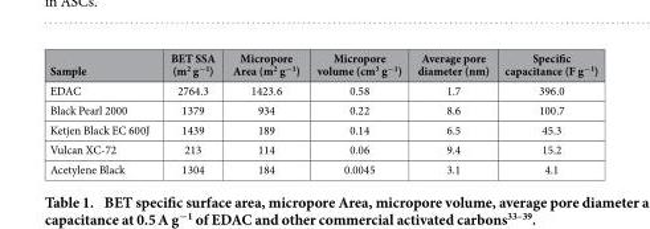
<table><thead><tr><td>Sample</td><td>BET SSA (m<sup>2</sup> g<sup>−1</sup>)</td><td>Micropore Area (m<sup>2</sup> g<sup>−1</sup>)</td><td>Micropore volume (cm<sup>3</sup> g<sup>−1</sup>)</td><td>Average pore diameter (nm)</td><td>Specific capacitance (F g<sup>−1</sup>)</td></tr></thead><tbody><tr><td>EDAC</td><td>2764.3</td><td>1423.6</td><td>0.58</td><td>1.7</td><td>396.0</td></tr><tr><td>Black Pearl 2000</td><td>1379</td><td>934</td><td>0.22</td><td>8.6</td><td>100.7</td></tr><tr><td>Ketjen Black EC 600J</td><td>1439</td><td>189</td><td>0.14</td><td>6.5</td><td>45.3</td></tr><tr><td>Vulcan XC-72</td><td>213</td><td>114</td><td>0.06</td><td>9.4</td><td>15.2</td></tr><tr><td>Acetylene Black</td><td>1304</td><td>184</td><td>0.0045</td><td>3.1</td><td>4.1</td></tr></tbody></table>